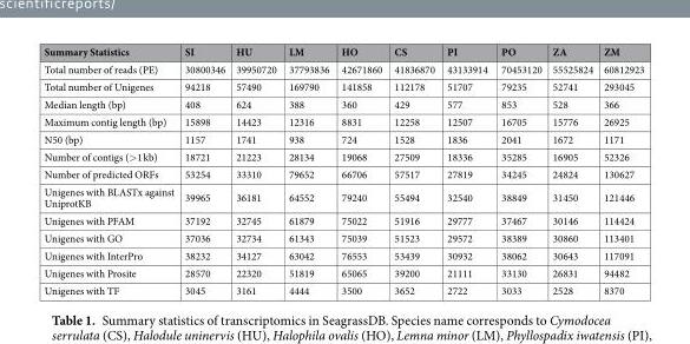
<table><thead><tr><td>Summary Statistics</td><td>SI</td><td>HU</td><td>LM</td><td>HO</td><td>CS</td><td>PI</td><td>PO</td><td>ZA</td><td>ZM</td></tr></thead><tbody><tr><td>Total number of reads (PE)</td><td>30800346</td><td>39950720</td><td>37793836</td><td>42671860</td><td>41836870</td><td>43133914</td><td>70453120</td><td>55525824</td><td>60812923</td></tr><tr><td>Total number of Unigenes</td><td>94218</td><td>57490</td><td>169790</td><td>141858</td><td>112178</td><td>51707</td><td>79235</td><td>52741</td><td>293045</td></tr><tr><td>Median length (bp)</td><td>408</td><td>624</td><td>388</td><td>360</td><td>429</td><td>577</td><td>853</td><td>528</td><td>366</td></tr><tr><td>Maximum contig length (bp)</td><td>15898</td><td>14423</td><td>12316</td><td>8831</td><td>12258</td><td>12507</td><td>16705</td><td>15776</td><td>26925</td></tr><tr><td>N50 (bp)</td><td>1157</td><td>1741</td><td>938</td><td>724</td><td>1528</td><td>1836</td><td>2041</td><td>1672</td><td>1171</td></tr><tr><td>Number of contigs (&gt;1 kb)</td><td>18721</td><td>21223</td><td>28134</td><td>19068</td><td>27509</td><td>18336</td><td>35285</td><td>16905</td><td>52326</td></tr><tr><td>Number of predicted ORFs</td><td>53254</td><td>33310</td><td>79652</td><td>66706</td><td>57517</td><td>27819</td><td>34245</td><td>24824</td><td>130627</td></tr><tr><td>Unigenes with BLASTx against UniprotKB</td><td>39965</td><td>36181</td><td>64552</td><td>79240</td><td>55494</td><td>32540</td><td>38849</td><td>31450</td><td>121446</td></tr><tr><td>Unigenes with PFAM</td><td>37192</td><td>32745</td><td>61879</td><td>75022</td><td>51916</td><td>29777</td><td>37467</td><td>30146</td><td>114424</td></tr><tr><td>Unigenes with GO</td><td>37036</td><td>32734</td><td>61343</td><td>75039</td><td>51523</td><td>29572</td><td>38389</td><td>30860</td><td>113401</td></tr><tr><td>Unigenes with InterPro</td><td>38232</td><td>34127</td><td>63042</td><td>76553</td><td>53439</td><td>30932</td><td>38062</td><td>30643</td><td>117091</td></tr><tr><td>Unigenes with Prosite</td><td>28570</td><td>22320</td><td>51819</td><td>65065</td><td>39200</td><td>21111</td><td>33130</td><td>26831</td><td>94482</td></tr><tr><td>Unigenes with TF</td><td>3045</td><td>3161</td><td>4444</td><td>3500</td><td>3652</td><td>2722</td><td>3033</td><td>2528</td><td>8370</td></tr></tbody></table>